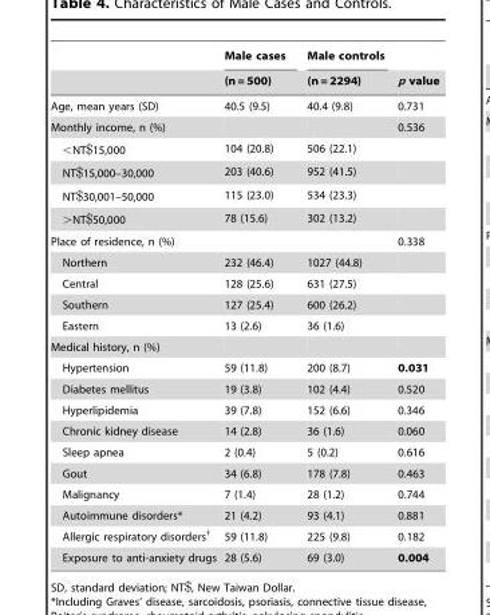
<table><thead><tr><td rowspan="2"></td><td rowspan="2">Male cases (n = 500)</td><td rowspan="2">Male controls (n = 2294)</td><td rowspan="2">p value</td></tr><tr></tr></thead><tbody><tr><td>Age, mean years (SD)</td><td>40.5 (9.5)</td><td>40.4 (9.8)</td><td>0.731</td></tr><tr><td>Monthly income, n (%)</td><td></td><td></td><td>0.536</td></tr><tr><td>&lt;NT$15,000</td><td>104 (20.8)</td><td>506 (22.1)</td><td></td></tr><tr><td>NT$15,000–30,000</td><td>203 (40.6)</td><td>952 (41.5)</td><td></td></tr><tr><td>NT$30,001–50,000</td><td>115 (23.0)</td><td>534 (23.3)</td><td></td></tr><tr><td>&gt;NT$50,000</td><td>78 (15.6)</td><td>302 (13.2)</td><td></td></tr><tr><td>Place of residence, n (%)</td><td></td><td></td><td>0.338</td></tr><tr><td>Northern</td><td>232 (46.4)</td><td>1027 (44.8)</td><td></td></tr><tr><td>Central</td><td>128 (25.6)</td><td>631 (27.5)</td><td></td></tr><tr><td>Southern</td><td>127 (25.4)</td><td>600 (26.2)</td><td></td></tr><tr><td>Eastern</td><td>13 (2.6)</td><td>36 (1.6)</td><td></td></tr><tr><td colspan="4">Medical history, n (%)</td></tr><tr><td>Hypertension</td><td>59 (11.8)</td><td>200 (8.7)</td><td>0.031</td></tr><tr><td>Diabetes mellitus</td><td>19 (3.8)</td><td>102 (4.4)</td><td>0.520</td></tr><tr><td>Hyperlipidemia</td><td>39 (7.8)</td><td>152 (6.6)</td><td>0.346</td></tr><tr><td>Chronic kidney disease</td><td>14 (2.8)</td><td>36 (1.6)</td><td>0.060</td></tr><tr><td>Sleep apnea</td><td>2 (0.4)</td><td>5 (0.2)</td><td>0.616</td></tr><tr><td>Gout</td><td>34 (6.8)</td><td>178 (7.8)</td><td>0.463</td></tr><tr><td>Malignancy</td><td>7 (1.4)</td><td>28 (1.2)</td><td>0.744</td></tr><tr><td>Autoimmune disorders*</td><td>21 (4.2)</td><td>93 (4.1)</td><td>0.881</td></tr><tr><td>Allergic respiratory disorders†</td><td>59 (11.8)</td><td>225 (9.8)</td><td>0.182</td></tr><tr><td>Exposure to anti-anxiety drugs</td><td>28 (5.6)</td><td>69 (3.0)</td><td>0.004</td></tr></tbody></table>